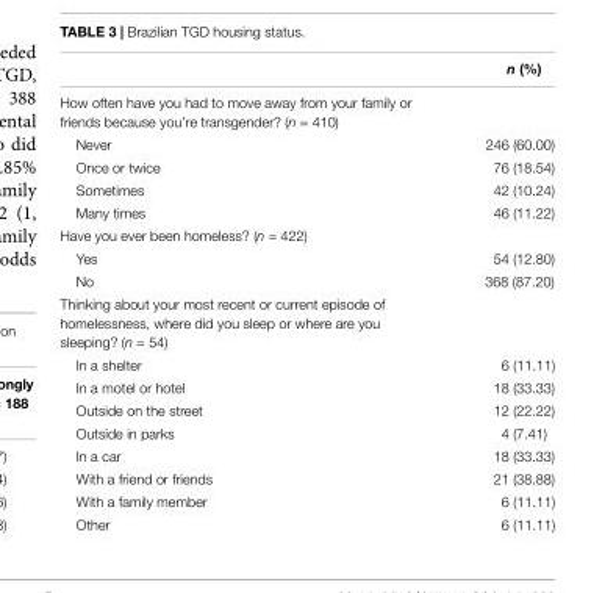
<table><thead><tr><td></td><td>n (%)</td></tr></thead><tbody><tr><td colspan="2">How often have you had to move away from your family or friends because you’re transgender? (n = 410)</td></tr><tr><td>Never</td><td>246 (60.00)</td></tr><tr><td>Once or twice</td><td>76 (18.54)</td></tr><tr><td>Sometimes</td><td>42 (10.24)</td></tr><tr><td>Many times</td><td>46 (11.22)</td></tr><tr><td colspan="2">Have you ever been homeless? (n = 422)</td></tr><tr><td>Yes</td><td>54 (12.80)</td></tr><tr><td>No</td><td>368 (87.20)</td></tr><tr><td colspan="2">Thinking about your most recent or current episode of homelessness, where did you sleep or where are you sleeping? (n = 54)</td></tr><tr><td>In a shelter</td><td>6 (11.11)</td></tr><tr><td>In a motel or hotel</td><td>18 (33.33)</td></tr><tr><td>Outside on the street</td><td>12 (22.22)</td></tr><tr><td>Outside in parks</td><td>4 (7.41)</td></tr><tr><td>In a car</td><td>18 (33.33)</td></tr><tr><td>With a friend or friends</td><td>21 (38.88)</td></tr><tr><td>With a family member</td><td>6 (11.11)</td></tr><tr><td>Other</td><td>6 (11.11)</td></tr></tbody></table>